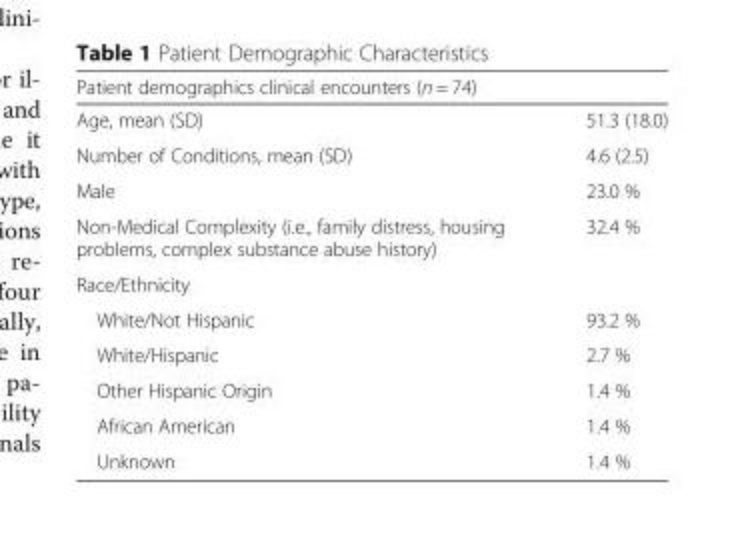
<table><thead><tr><td colspan="2">Patient demographics clinical encounters (n = 74)</td></tr><tr><td>Age, mean (SD)</td><td>51.3 (18.0)</td></tr></thead><tbody><tr><td>Number of Conditions, mean (SD)</td><td>4.6 (2.5)</td></tr><tr><td>Male</td><td>23.0 %</td></tr><tr><td>Non-Medical Complexity (i.e., family distress, housing problems, complex substance abuse history)</td><td>32.4 %</td></tr><tr><td colspan="2">Race/Ethnicity</td></tr><tr><td>White/Not Hispanic</td><td>93.2 %</td></tr><tr><td>White/Hispanic</td><td>2.7 %</td></tr><tr><td>Other Hispanic Origin</td><td>1.4 %</td></tr><tr><td>African American</td><td>1.4 %</td></tr><tr><td>Unknown</td><td>1.4 %</td></tr></tbody></table>